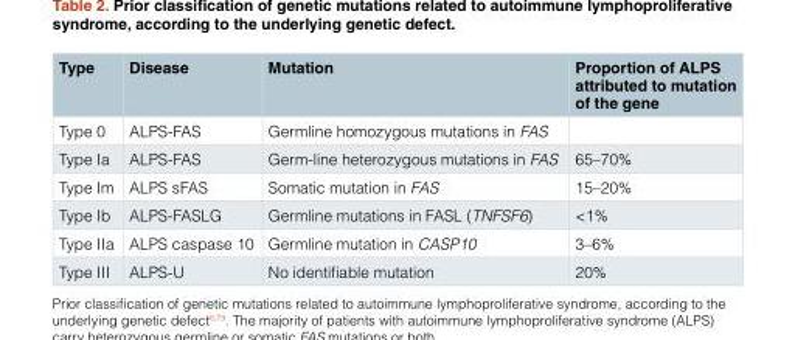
<table><thead><tr><td>Type</td><td>Disease</td><td>Mutation</td><td>Proportion of ALPS attributed to mutation of the gene</td></tr></thead><tbody><tr><td>Type 0</td><td>ALPS-FAS</td><td>Germline homozygous mutations in FAS</td><td></td></tr><tr><td>Type Ia</td><td>ALPS-FAS</td><td>Germ-line heterozygous mutations in FAS</td><td>65–70%</td></tr><tr><td>Type Im</td><td>ALPS sFAS</td><td>Somatic mutation in FAS</td><td>15–20%</td></tr><tr><td>Type Ib</td><td>ALPS-FASLG</td><td>Germline mutations in FASL (TNFSF6)</td><td>&lt;1%</td></tr><tr><td>Type IIa</td><td>ALPS caspase 10</td><td>Germline mutation in CASP10</td><td>3–6%</td></tr><tr><td>Type III</td><td>ALPS-U</td><td>No identifiable mutation</td><td>20%</td></tr></tbody></table>